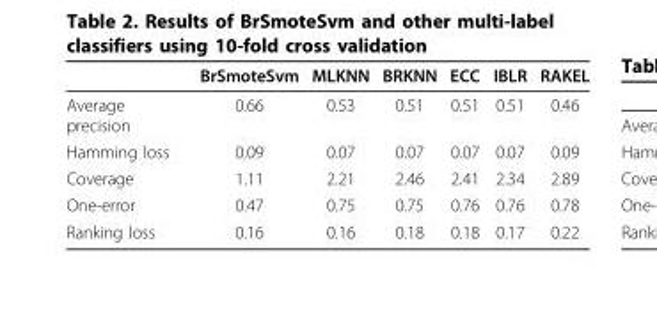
<table><thead><tr><td></td><td>BrSmoteSvm</td><td>MLKNN</td><td>BRKNN</td><td>ECC</td><td>IBLR</td><td>RAKEL</td></tr></thead><tbody><tr><td>Average precision</td><td>0.66</td><td>0.53</td><td>0.51</td><td>0.51</td><td>0.51</td><td>0.46</td></tr><tr><td>Hamming loss</td><td>0.09</td><td>0.07</td><td>0.07</td><td>0.07</td><td>0.07</td><td>0.09</td></tr><tr><td>Coverage</td><td>1.11</td><td>2.21</td><td>2.46</td><td>2.41</td><td>2.34</td><td>2.89</td></tr><tr><td>One-error</td><td>0.47</td><td>0.75</td><td>0.75</td><td>0.76</td><td>0.76</td><td>0.78</td></tr><tr><td>Ranking loss</td><td>0.16</td><td>0.16</td><td>0.18</td><td>0.18</td><td>0.17</td><td>0.22</td></tr></tbody></table>